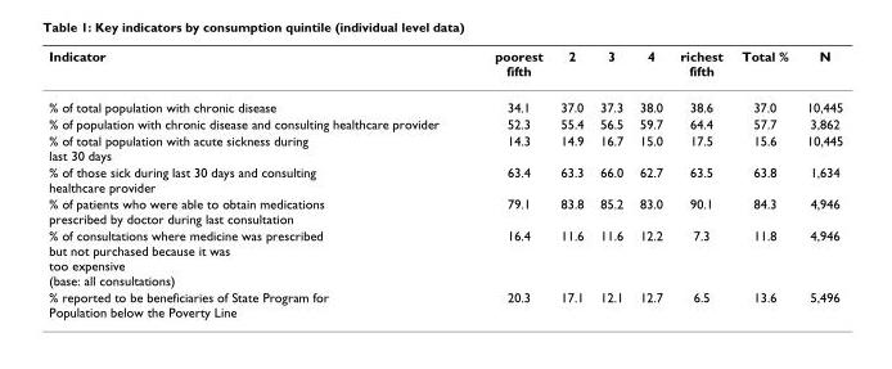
<table><thead><tr><td>Indicator</td><td>poorest fifth</td><td>2</td><td>3</td><td>4</td><td>richest fifth</td><td>Total %</td><td>N</td></tr></thead><tbody><tr><td>% of total population with chronic disease</td><td>34.1</td><td>37.0</td><td>37.3</td><td>38.0</td><td>38.6</td><td>37.0</td><td>10,445</td></tr><tr><td>% of population with chronic disease and consulting healthcare provider</td><td>52.3</td><td>55.4</td><td>56.5</td><td>59.7</td><td>64.4</td><td>57.7</td><td>3,862</td></tr><tr><td>% of total population with acute sickness during last 30 days</td><td>14.3</td><td>14.9</td><td>16.7</td><td>15.0</td><td>17.5</td><td>15.6</td><td>10,445</td></tr><tr><td>% of those sick during last 30 days and consulting healthcare provider</td><td>63.4</td><td>63.3</td><td>66.0</td><td>62.7</td><td>63.5</td><td>63.8</td><td>1,634</td></tr><tr><td>% of patients who were able to obtain medications prescribed by doctor during last consultation</td><td>79.1</td><td>83.8</td><td>85.2</td><td>83.0</td><td>90.1</td><td>84.3</td><td>4,946</td></tr><tr><td>% of consultations where medicine was prescribed but not purchased because it was too expensive (base: all consultations)</td><td>16.4</td><td>11.6</td><td>11.6</td><td>12.2</td><td>7.3</td><td>11.8</td><td>4,946</td></tr><tr><td>% reported to be beneficiaries of State Program for Population below the Poverty Line</td><td>20.3</td><td>17.1</td><td>12.1</td><td>12.7</td><td>6.5</td><td>13.6</td><td>5,496</td></tr></tbody></table>